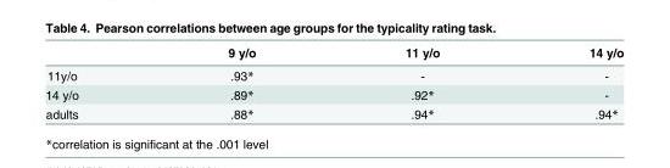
<table><thead><tr><td></td><td>9 y/o</td><td>11 y/o</td><td>14 y/o</td></tr></thead><tbody><tr><td>11y/o</td><td>.93*</td><td>-</td><td>-</td></tr><tr><td>14 y/o</td><td>.89*</td><td>.92*</td><td>-</td></tr><tr><td>adults</td><td>.88*</td><td>.94*</td><td>.94*</td></tr></tbody></table>